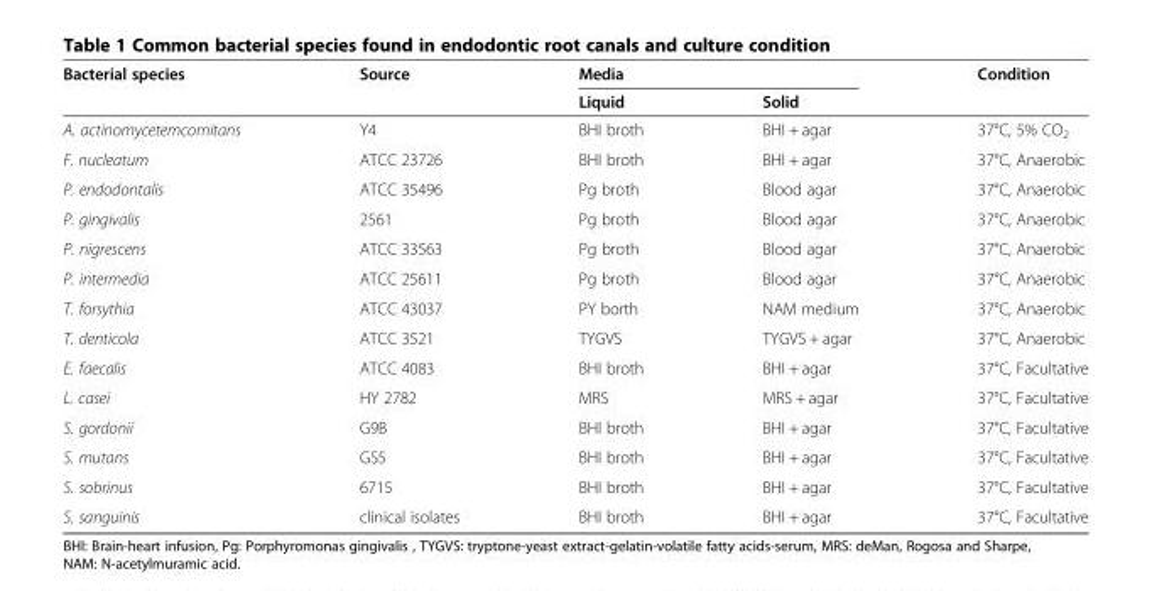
<table><thead><tr><td rowspan="2">Bacterial species</td><td rowspan="2">Source</td><td colspan="2">Media</td><td rowspan="2">Condition</td></tr><tr><td>Liquid</td><td>Solid</td></tr></thead><tbody><tr><td>A. actinomycetemcomitans</td><td>Y4</td><td>BHI broth</td><td>BHI + agar</td><td>37°C, 5% CO<sub>2</sub></td></tr><tr><td>F. nucleatum</td><td>ATCC 23726</td><td>BHI broth</td><td>BHI + agar</td><td>37°C, Anaerobic</td></tr><tr><td>P. endodontalis</td><td>ATCC 35496</td><td>Pg broth</td><td>Blood agar</td><td>37°C, Anaerobic</td></tr><tr><td>P. gingivalis</td><td>2561</td><td>Pg broth</td><td>Blood agar</td><td>37°C, Anaerobic</td></tr><tr><td>P. nigrescens</td><td>ATCC 33563</td><td>Pg broth</td><td>Blood agar</td><td>37°C, Anaerobic</td></tr><tr><td>P. intermedia</td><td>ATCC 25611</td><td>Pg broth</td><td>Blood agar</td><td>37°C, Anaerobic</td></tr><tr><td>T. forsythia</td><td>ATCC 43037</td><td>PY borth</td><td>NAM medium</td><td>37°C, Anaerobic</td></tr><tr><td>T. denticola</td><td>ATCC 3521</td><td>TYGVS</td><td>TYGVS + agar</td><td>37°C, Anaerobic</td></tr><tr><td>E. faecalis</td><td>ATCC 4083</td><td>BHI broth</td><td>BHI + agar</td><td>37°C, Facultative</td></tr><tr><td>L. casei</td><td>HY 2782</td><td>MRS</td><td>MRS + agar</td><td>37°C, Facultative</td></tr><tr><td>S. gordonii</td><td>G9B</td><td>BHI broth</td><td>BHI + agar</td><td>37°C, Facultative</td></tr><tr><td>S. mutans</td><td>GS5</td><td>BHI broth</td><td>BHI + agar</td><td>37°C, Facultative</td></tr><tr><td>S. sobrinus</td><td>6715</td><td>BHI broth</td><td>BHI + agar</td><td>37°C, Facultative</td></tr><tr><td>S. sanguinis</td><td>clinical isolates</td><td>BHI broth</td><td>BHI + agar</td><td>37°C, Facultative</td></tr></tbody></table>